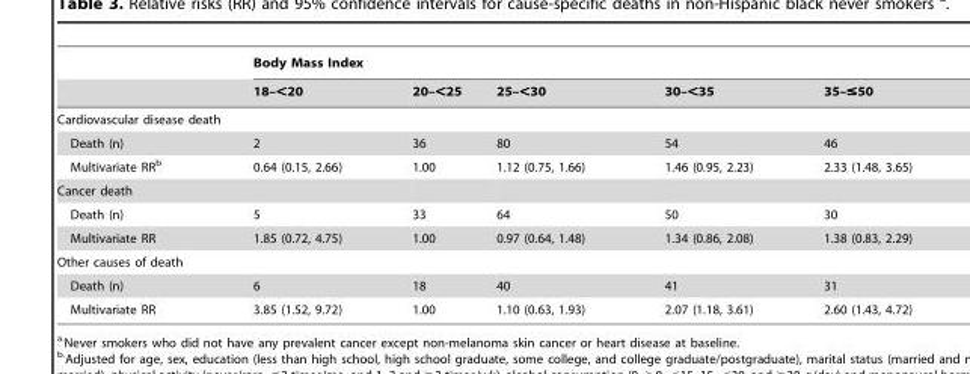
<table><thead><tr><td rowspan="2"></td><td colspan="5">Body Mass Index</td></tr><tr><td>18–&lt;20</td><td>20–&lt;25</td><td>25–&lt;30</td><td>30–&lt;35</td><td>35–≤50</td></tr></thead><tbody><tr><td colspan="6">Cardiovascular disease death</td></tr><tr><td>Death (n)</td><td>2</td><td>36</td><td>80</td><td>54</td><td>46</td></tr><tr><td>Multivariate RR<sup>b</sup></td><td>0.64 (0.15, 2.66)</td><td>1.00</td><td>1.12 (0.75, 1.66)</td><td>1.46 (0.95, 2.23)</td><td>2.33 (1.48, 3.65)</td></tr><tr><td colspan="6">Cancer death</td></tr><tr><td>Death (n)</td><td>5</td><td>33</td><td>64</td><td>50</td><td>30</td></tr><tr><td>Multivariate RR</td><td>1.85 (0.72, 4.75)</td><td>1.00</td><td>0.97 (0.64, 1.48)</td><td>1.34 (0.86, 2.08)</td><td>1.38 (0.83, 2.29)</td></tr><tr><td colspan="6">Other causes of death</td></tr><tr><td>Death (n)</td><td>6</td><td>18</td><td>40</td><td>41</td><td>31</td></tr><tr><td>Multivariate RR</td><td>3.85 (1.52, 9.72)</td><td>1.00</td><td>1.10 (0.63, 1.93)</td><td>2.07 (1.18, 3.61)</td><td>2.60 (1.43, 4.72)</td></tr></tbody></table>